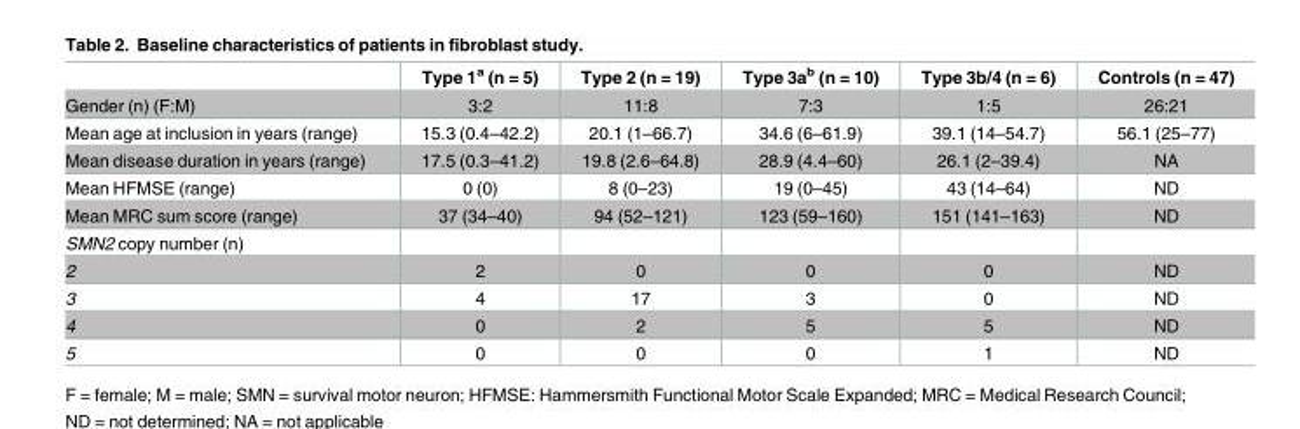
<table><thead><tr><td></td><td>Type 1<sup>a</sup> (n = 5)</td><td>Type 2 (n = 19)</td><td>Type 3a<sup>b</sup> (n = 10)</td><td>Type 3b/4 (n = 6)</td><td>Controls (n = 47)</td></tr></thead><tbody><tr><td>Gender (n) (F:M)</td><td>3:2</td><td>11:8</td><td>7:3</td><td>1:5</td><td>26:21</td></tr><tr><td>Mean age at inclusion in years (range)</td><td>15.3 (0.4–42.2)</td><td>20.1 (1–66.7)</td><td>34.6 (6–61.9)</td><td>39.1 (14–54.7)</td><td>56.1 (25–77)</td></tr><tr><td>Mean disease duration in years (range)</td><td>17.5 (0.3–41.2)</td><td>19.8 (2.6–64.8)</td><td>28.9 (4.4–60)</td><td>26.1 (2–39.4)</td><td>NA</td></tr><tr><td>Mean HFMSE (range)</td><td>0 (0)</td><td>8 (0–23)</td><td>19 (0–45)</td><td>43 (14–64)</td><td>ND</td></tr><tr><td>Mean MRC sum score (range)</td><td>37 (34–40)</td><td>94 (52–121)</td><td>123 (59–160)</td><td>151 (141–163)</td><td>ND</td></tr><tr><td colspan="6">SMN2 copy number (n)</td></tr><tr><td>2</td><td>2</td><td>0</td><td>0</td><td>0</td><td>ND</td></tr><tr><td>3</td><td>4</td><td>17</td><td>3</td><td>0</td><td>ND</td></tr><tr><td>4</td><td>0</td><td>2</td><td>5</td><td>5</td><td>ND</td></tr><tr><td>5</td><td>0</td><td>0</td><td>0</td><td>1</td><td>ND</td></tr></tbody></table>